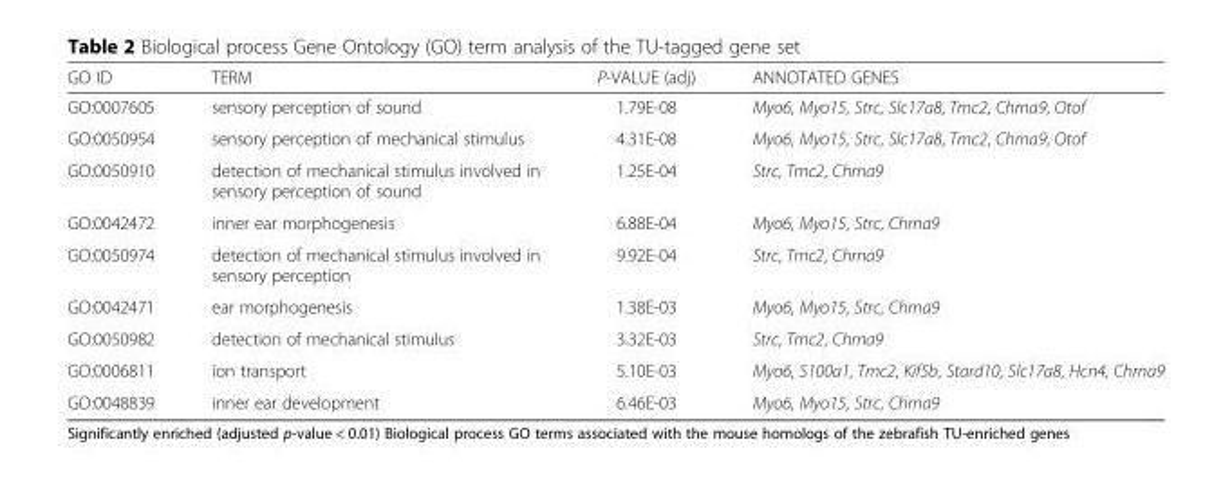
<table><thead><tr><td>GO ID</td><td>TERM</td><td>P-VALUE (adj)</td><td>ANNOTATED GENES</td></tr></thead><tbody><tr><td>GO:0007605</td><td>sensory perception of sound</td><td>1.79E-08</td><td>Myo6, Myo15, Strc, Slc17a8, Tmc2, Chrna9, Otof</td></tr><tr><td>GO:0050954</td><td>sensory perception of mechanical stimulus</td><td>4.31E-08</td><td>Myo6, Myo15, Strc, Slc17a8, Tmc2, Chrna9, Otof</td></tr><tr><td>GO:0050910</td><td>detection of mechanical stimulus involved in sensory perception of sound</td><td>1.25E-04</td><td>Strc, Tmc2, Chrna9</td></tr><tr><td>GO:0042472</td><td>inner ear morphogenesis</td><td>6.88E-04</td><td>Myo6, Myo15, Strc, Chrna9</td></tr><tr><td>GO:0050974</td><td>detection of mechanical stimulus involved in sensory perception</td><td>9.92E-04</td><td>Strc, Tmc2, Chrna9</td></tr><tr><td>GO:0042471</td><td>ear morphogenesis</td><td>1.38E-03</td><td>Myo6, Myo15, Strc, Chrna9</td></tr><tr><td>GO:0050982</td><td>detection of mechanical stimulus</td><td>3.32E-03</td><td>Strc, Tmc2, Chrna9</td></tr><tr><td>GO:0006811</td><td>ion transport</td><td>5.10E-03</td><td>Myo6, S100a1, Tmc2, Kif5b, Stard10, Slc17a8, Hcn4, Chrna9</td></tr><tr><td>GO:0048839</td><td>inner ear development</td><td>6.46E-03</td><td>Myo6, Myo15, Strc, Chrna9</td></tr></tbody></table>